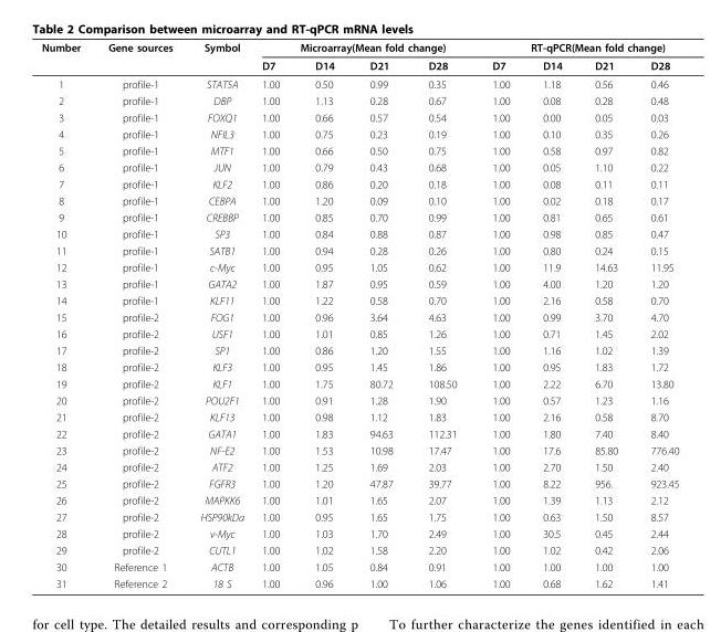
<table><thead><tr><td rowspan="2">Number</td><td rowspan="2">Gene sources</td><td rowspan="2">Symbol</td><td colspan="4">Microarray(Mean fold change)</td><td colspan="4">RT-qPCR(Mean fold change)</td></tr><tr><td>D7</td><td>D14</td><td>D21</td><td>D28</td><td>D7</td><td>D14</td><td>D21</td><td>D28</td></tr></thead><tbody><tr><td>1</td><td>profile-1</td><td>STAT5A</td><td>1.00</td><td>0.50</td><td>0.99</td><td>0.35</td><td>1.00</td><td>1.18</td><td>0.56</td><td>0.46</td></tr><tr><td>2</td><td>profile-1</td><td>DBP</td><td>1.00</td><td>1.13</td><td>0.28</td><td>0.67</td><td>1.00</td><td>0.08</td><td>0.28</td><td>0.48</td></tr><tr><td>3</td><td>profile-1</td><td>FOXQ1</td><td>1.00</td><td>0.66</td><td>0.57</td><td>0.54</td><td>1.00</td><td>0.00</td><td>0.05</td><td>0.03</td></tr><tr><td>4</td><td>profile-1</td><td>NFIL3</td><td>1.00</td><td>0.75</td><td>0.23</td><td>0.19</td><td>1.00</td><td>0.10</td><td>0.35</td><td>0.26</td></tr><tr><td>5</td><td>profile-1</td><td>MTF1</td><td>1.00</td><td>0.66</td><td>0.50</td><td>0.75</td><td>1.00</td><td>0.58</td><td>0.97</td><td>0.82</td></tr><tr><td>6</td><td>profile-1</td><td>JUN</td><td>1.00</td><td>0.79</td><td>0.43</td><td>0.68</td><td>1.00</td><td>0.05</td><td>1.10</td><td>0.22</td></tr><tr><td>7</td><td>profile-1</td><td>KLF2</td><td>1.00</td><td>0.86</td><td>0.20</td><td>0.18</td><td>1.00</td><td>0.08</td><td>0.11</td><td>0.11</td></tr><tr><td>8</td><td>profile-1</td><td>CEBPA</td><td>1.00</td><td>1.20</td><td>0.09</td><td>0.10</td><td>1.00</td><td>0.02</td><td>0.18</td><td>0.17</td></tr><tr><td>9</td><td>profile-1</td><td>CREBBP</td><td>1.00</td><td>0.85</td><td>0.70</td><td>0.99</td><td>1.00</td><td>0.81</td><td>0.65</td><td>0.61</td></tr><tr><td>10</td><td>profile-1</td><td>SP3</td><td>1.00</td><td>0.84</td><td>0.88</td><td>0.87</td><td>1.00</td><td>0.98</td><td>0.85</td><td>0.47</td></tr><tr><td>11</td><td>profile-1</td><td>SATB1</td><td>1.00</td><td>0.94</td><td>0.28</td><td>0.26</td><td>1.00</td><td>0.80</td><td>0.24</td><td>0.15</td></tr><tr><td>12</td><td>profile-1</td><td>c-Myc</td><td>1.00</td><td>0.95</td><td>1.05</td><td>0.62</td><td>1.00</td><td>11.9</td><td>14.63</td><td>11.95</td></tr><tr><td>13</td><td>profile-1</td><td>GATA2</td><td>1.00</td><td>1.87</td><td>0.95</td><td>0.59</td><td>1.00</td><td>4.00</td><td>1.20</td><td>1.20</td></tr><tr><td>14</td><td>profile-1</td><td>KLF11</td><td>1.00</td><td>1.22</td><td>0.58</td><td>0.70</td><td>1.00</td><td>2.16</td><td>0.58</td><td>0.70</td></tr><tr><td>15</td><td>profile-2</td><td>FOG1</td><td>1.00</td><td>0.96</td><td>3.64</td><td>4.63</td><td>1.00</td><td>0.99</td><td>3.70</td><td>4.70</td></tr><tr><td>16</td><td>profile-2</td><td>USF1</td><td>1.00</td><td>1.01</td><td>0.85</td><td>1.26</td><td>1.00</td><td>0.71</td><td>1.45</td><td>2.02</td></tr><tr><td>17</td><td>profile-2</td><td>SP1</td><td>1.00</td><td>0.86</td><td>1.20</td><td>1.55</td><td>1.00</td><td>1.16</td><td>1.02</td><td>1.39</td></tr><tr><td>18</td><td>profile-2</td><td>KLF3</td><td>1.00</td><td>0.95</td><td>1.45</td><td>1.86</td><td>1.00</td><td>0.95</td><td>1.83</td><td>1.72</td></tr><tr><td>19</td><td>profile-2</td><td>KLF1</td><td>1.00</td><td>1.75</td><td>80.72</td><td>108.50</td><td>1.00</td><td>2.22</td><td>6.70</td><td>13.80</td></tr><tr><td>20</td><td>profile-2</td><td>POU2F1</td><td>1.00</td><td>0.91</td><td>1.28</td><td>1.90</td><td>1.00</td><td>0.57</td><td>1.23</td><td>1.16</td></tr><tr><td>21</td><td>profile-2</td><td>KLF13</td><td>1.00</td><td>0.98</td><td>1.12</td><td>1.83</td><td>1.00</td><td>2.16</td><td>0.58</td><td>8.70</td></tr><tr><td>22</td><td>profile-2</td><td>GATA1</td><td>1.00</td><td>1.83</td><td>94.63</td><td>112.31</td><td>1.00</td><td>1.80</td><td>7.40</td><td>8.40</td></tr><tr><td>23</td><td>profile-2</td><td>NF-E2</td><td>1.00</td><td>1.53</td><td>10.98</td><td>17.47</td><td>1.00</td><td>17.6</td><td>85.80</td><td>776.40</td></tr><tr><td>24</td><td>profile-2</td><td>ATF2</td><td>1.00</td><td>1.25</td><td>1.69</td><td>2.03</td><td>1.00</td><td>2.70</td><td>1.50</td><td>2.40</td></tr><tr><td>25</td><td>profile-2</td><td>FGFR3</td><td>1.00</td><td>1.20</td><td>47.87</td><td>39.77</td><td>1.00</td><td>8.22</td><td>956.</td><td>923.45</td></tr><tr><td>26</td><td>profile-2</td><td>MAPKK6</td><td>1.00</td><td>1.01</td><td>1.65</td><td>2.07</td><td>1.00</td><td>1.39</td><td>1.13</td><td>2.12</td></tr><tr><td>27</td><td>profile-2</td><td>HSP90kDa</td><td>1.00</td><td>0.95</td><td>1.65</td><td>1.75</td><td>1.00</td><td>0.63</td><td>1.50</td><td>8.57</td></tr><tr><td>28</td><td>profile-2</td><td>v-Myc</td><td>1.00</td><td>1.03</td><td>1.70</td><td>2.49</td><td>1.00</td><td>30.5</td><td>0.45</td><td>2.44</td></tr><tr><td>29</td><td>profile-2</td><td>CUTL1</td><td>1.00</td><td>1.02</td><td>1.58</td><td>2.20</td><td>1.00</td><td>1.02</td><td>0.42</td><td>2.06</td></tr><tr><td>30</td><td>Reference 1</td><td>ACTB</td><td>1.00</td><td>1.05</td><td>0.84</td><td>0.91</td><td>1.00</td><td>1.00</td><td>1.00</td><td>1.00</td></tr><tr><td>31</td><td>Reference 2</td><td>18 S</td><td>1.00</td><td>0.96</td><td>1.00</td><td>1.06</td><td>1.00</td><td>0.68</td><td>1.62</td><td>1.41</td></tr></tbody></table>